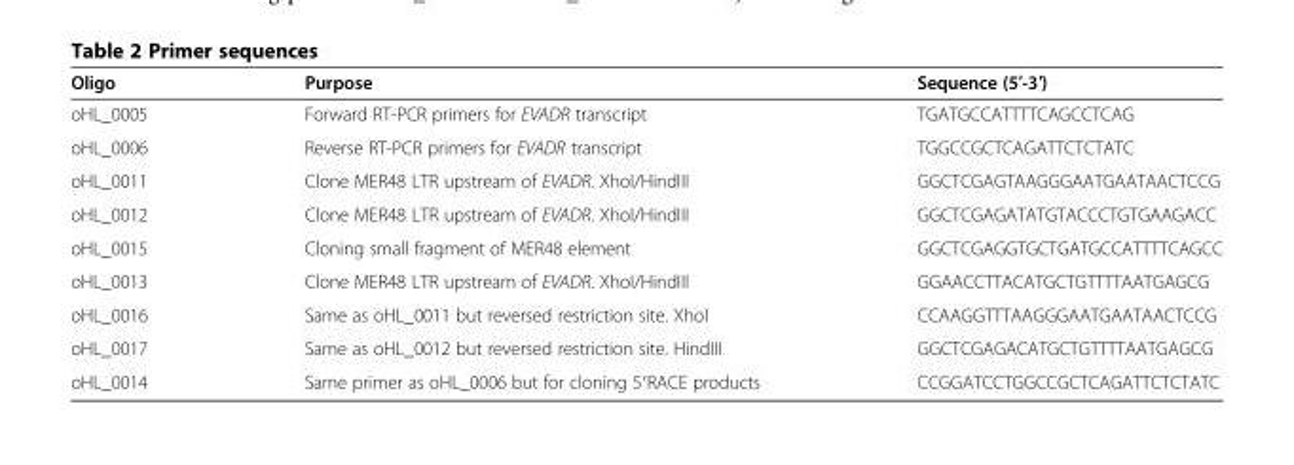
<table><thead><tr><td>Oligo</td><td>Purpose</td><td>Sequence (5′-3′)</td></tr></thead><tbody><tr><td>oHL_0005</td><td>Forward RT-PCR primers for EVADR transcript</td><td>TGATGCCATTTTCAGCCTCAG</td></tr><tr><td>oHL_0006</td><td>Reverse RT-PCR primers for EVADR transcript</td><td>TGGCCGCTCAGATTCTCTATC</td></tr><tr><td>oHL_0011</td><td>Clone MER48 LTR upstream of EVADR. XhoI/HindIII</td><td>GGCTCGAGTAAGGGAATGAATAACTCCG</td></tr><tr><td>oHL_0012</td><td>Clone MER48 LTR upstream of EVADR. XhoI/HindIII</td><td>GGCTCGAGATATGTACCCTGTGAAGACC</td></tr><tr><td>oHL_0015</td><td>Cloning small fragment of MER48 element</td><td>GGCTCGAGGTGCTGATGCCATTTTCAGCC</td></tr><tr><td>oHL_0013</td><td>Clone MER48 LTR upstream of EVADR. XhoI/HindIII</td><td>GGAACCTTACATGCTGTTTTAATGAGCG</td></tr><tr><td>oHL_0016</td><td>Same as oHL_0011 but reversed restriction site. XhoI</td><td>CCAAGGTTTAAGGGAATGAATAACTCCG</td></tr><tr><td>oHL_0017</td><td>Same as oHL_0012 but reversed restriction site. HindIII</td><td>GGCTCGAGACATGCTGTTTTAATGAGCG</td></tr><tr><td>oHL_0014</td><td>Same primer as oHL_0006 but for cloning 5′RACE products</td><td>CCGGATCCTGGCCGCTCAGATTCTCTATC</td></tr></tbody></table>